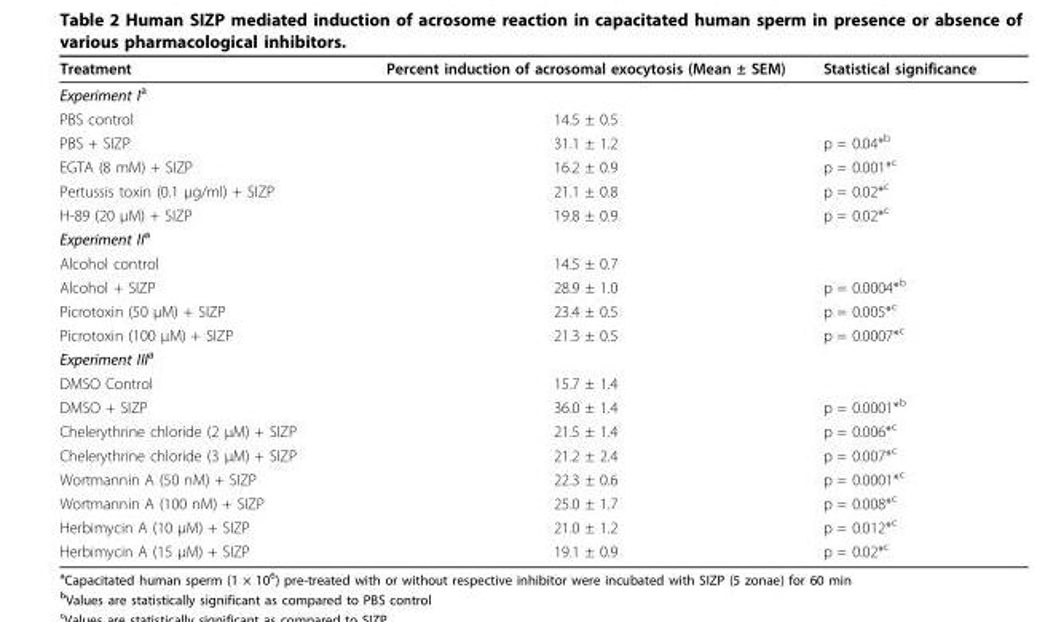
<table><thead><tr><td>Treatment</td><td>Percent induction of acrosomal exocytosis (Mean ± SEM)</td><td>Statistical significance</td></tr></thead><tbody><tr><td colspan="3">Experiment I<sup>a</sup></td></tr><tr><td>PBS control</td><td>14.5 ± 0.5</td><td></td></tr><tr><td>PBS + SIZP</td><td>31.1 ± 1.2</td><td>p = 0.04*<sup>b</sup></td></tr><tr><td>EGTA (8 mM) + SIZP</td><td>16.2 ± 0.9</td><td>p = 0.001*<sup>c</sup></td></tr><tr><td>Pertussis toxin (0.1 μg/ml) + SIZP</td><td>21.1 ± 0.8</td><td>p = 0.02*<sup>c</sup></td></tr><tr><td>H-89 (20 μM) + SIZP</td><td>19.8 ± 0.9</td><td>p = 0.02*<sup>c</sup></td></tr><tr><td colspan="3">Experiment II<sup>a</sup></td></tr><tr><td>Alcohol control</td><td>14.5 ± 0.7</td><td></td></tr><tr><td>Alcohol + SIZP</td><td>28.9 ± 1.0</td><td>p = 0.0004*<sup>b</sup></td></tr><tr><td>Picrotoxin (50 μM) + SIZP</td><td>23.4 ± 0.5</td><td>p = 0.005*<sup>c</sup></td></tr><tr><td>Picrotoxin (100 μM) + SIZP</td><td>21.3 ± 0.5</td><td>p = 0.0007*<sup>c</sup></td></tr><tr><td colspan="3">Experiment III<sup>a</sup></td></tr><tr><td>DMSO Control</td><td>15.7 ± 1.4</td><td></td></tr><tr><td>DMSO + SIZP</td><td>36.0 ± 1.4</td><td>p = 0.0001*<sup>b</sup></td></tr><tr><td>Chelerythrine chloride (2 μM) + SIZP</td><td>21.5 ± 1.4</td><td>p = 0.006*<sup>c</sup></td></tr><tr><td>Chelerythrine chloride (3 μM) + SIZP</td><td>21.2 ± 2.4</td><td>p = 0.007*<sup>c</sup></td></tr><tr><td>Wortmannin A (50 nM) + SIZP</td><td>22.3 ± 0.6</td><td>p = 0.0001*<sup>c</sup></td></tr><tr><td>Wortmannin A (100 nM) + SIZP</td><td>25.0 ± 1.7</td><td>p = 0.008*<sup>c</sup></td></tr><tr><td>Herbimycin A (10 μM) + SIZP</td><td>21.0 ± 1.2</td><td>p = 0.012*<sup>c</sup></td></tr><tr><td>Herbimycin A (15 μM) + SIZP</td><td>19.1 ± 0.9</td><td>p = 0.02*<sup>c</sup></td></tr></tbody></table>